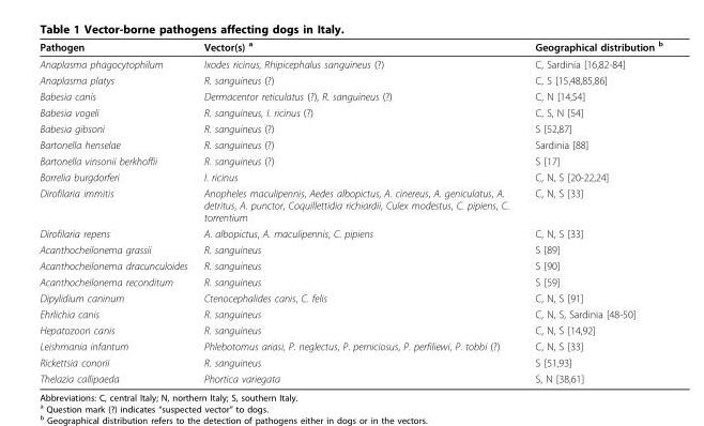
<table><thead><tr><td>Pathogen</td><td>Vector(s) <sup>a</sup></td><td>Geographical distribution <sup>b</sup></td></tr></thead><tbody><tr><td>Anaplasma phagocytophilum</td><td>Ixodes ricinus, Rhipicephalus sanguineus (?)</td><td>C, Sardinia [16,82-84]</td></tr><tr><td>Anaplasma platys</td><td>R. sanguineus (?)</td><td>C, S [15,48,85,86]</td></tr><tr><td>Babesia canis</td><td>Dermacentor reticulatus (?), R. sanguineus (?)</td><td>C, N [14,54]</td></tr><tr><td>Babesia vogeli</td><td>R. sanguineus, I. ricinus (?)</td><td>C, S, N [54]</td></tr><tr><td>Babesia gibsoni</td><td>R. sanguineus (?)</td><td>S [52,87]</td></tr><tr><td>Bartonella henselae</td><td>R. sanguineus (?)</td><td>Sardinia [88]</td></tr><tr><td>Bartonella vinsonii berkhoffii</td><td>R. sanguineus (?)</td><td>S [17]</td></tr><tr><td>Borrelia burgdorferi</td><td>I. ricinus</td><td>C, N, S [20-22,24]</td></tr><tr><td>Dirofilaria immitis</td><td>Anopheles maculipennis, Aedes albopictus, A. cinereus, A. geniculatus, A. detritus, A. punctor, Coquillettidia richiardii, Culex modestus, C. pipiens, C. torrentium</td><td>C, N, S [33]</td></tr><tr><td>Dirofilaria repens</td><td>A. albopictus, A. maculipennis, C. pipiens</td><td>C, N, S [33]</td></tr><tr><td>Acanthocheilonema grassii</td><td>R. sanguineus</td><td>S [89]</td></tr><tr><td>Acanthocheilonema dracunculoides</td><td>R. sanguineus</td><td>S [90]</td></tr><tr><td>Acanthocheilonema reconditum</td><td>R. sanguineus</td><td>S [59]</td></tr><tr><td>Dipylidium caninum</td><td>Ctenocephalides canis, C. felis</td><td>C, N, S [91]</td></tr><tr><td>Ehrlichia canis</td><td>R. sanguineus</td><td>C, N, S, Sardinia [48-50]</td></tr><tr><td>Hepatozoon canis</td><td>R. sanguineus</td><td>C, N, S [14,92]</td></tr><tr><td>Leishmania infantum</td><td>Phlebotomus ariasi, P. neglectus, P. perniciosus, P. perfiliewi, P. tobbi (?)</td><td>C, N, S [33]</td></tr><tr><td>Rickettsia conorii</td><td>R. sanguineus</td><td>S [51,93]</td></tr><tr><td>Thelazia callipaeda</td><td>Phortica variegata</td><td>S, N [38,61]</td></tr></tbody></table>